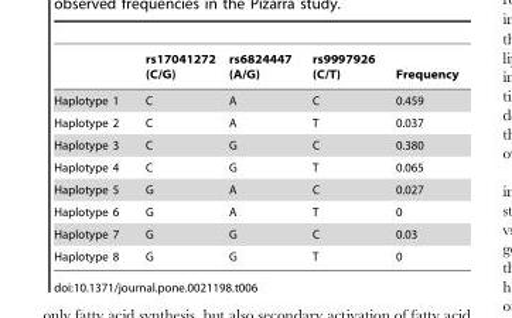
<table><thead><tr><td></td><td>rs17041272 (C/G)</td><td>rs6824447 (A/G)</td><td>rs9997926 (C/T)</td><td>Frequency</td></tr></thead><tbody><tr><td>Haplotype 1</td><td>C</td><td>A</td><td>C</td><td>0.459</td></tr><tr><td>Haplotype 2</td><td>C</td><td>A</td><td>T</td><td>0.037</td></tr><tr><td>Haplotype 3</td><td>C</td><td>G</td><td>C</td><td>0.380</td></tr><tr><td>Haplotype 4</td><td>C</td><td>G</td><td>T</td><td>0.065</td></tr><tr><td>Haplotype 5</td><td>G</td><td>A</td><td>C</td><td>0.027</td></tr><tr><td>Haplotype 6</td><td>G</td><td>A</td><td>T</td><td>0</td></tr><tr><td>Haplotype 7</td><td>G</td><td>G</td><td>C</td><td>0.03</td></tr><tr><td>Haplotype 8</td><td>G</td><td>G</td><td>T</td><td>0</td></tr></tbody></table>